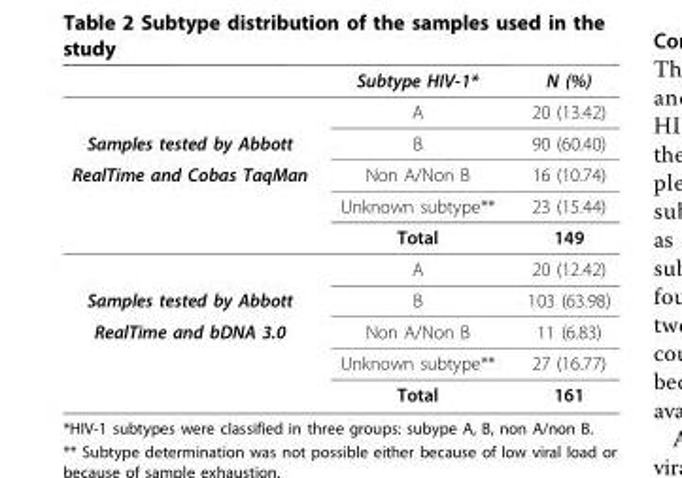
<table><thead><tr><td></td><td>Subtype HIV-1*</td><td>N (%)</td></tr></thead><tbody><tr><td></td><td>A</td><td>20 (13.42)</td></tr><tr><td>Samples tested by Abbott</td><td>Β</td><td>90 (60.40)</td></tr><tr><td rowspan="4">RealTime and Cobas TaqMan</td><td>Νοn A/Non B</td><td>16 (10.74)</td></tr><tr><td>Unknown subtype**</td><td>23 (15.44)</td></tr><tr><td>Total</td><td>149</td></tr><tr><td>A</td><td>20 (12.42)</td></tr><tr><td>Samples tested by Abbott</td><td>Β</td><td>103 (63.98)</td></tr><tr><td rowspan="3">RealTime and bDNA 3.0</td><td>Νοn A/Non B</td><td>11 (6.83)</td></tr><tr><td>Unknown subtype**</td><td>27 (16.77)</td></tr><tr><td>Total</td><td>161</td></tr></tbody></table>